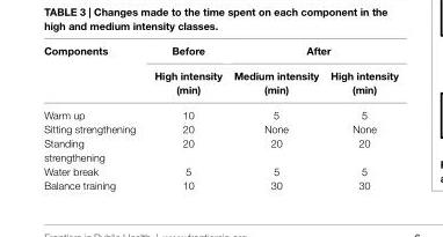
<table><thead><tr><td rowspan="2">components</td><td rowspan="2">Before high intensity (min)</td><td colspan="2">after</td></tr><tr><td>Medium intensity (min)</td><td>high intensity (min)</td></tr></thead><tbody><tr><td>Warm up</td><td>10</td><td>5</td><td>5</td></tr><tr><td>Sitting strengthening</td><td>20</td><td>None</td><td>None</td></tr><tr><td>Standing strengthening</td><td>20</td><td>20</td><td>20</td></tr><tr><td>Water break</td><td>5</td><td>5</td><td>5</td></tr><tr><td>Balance training</td><td>10</td><td>30</td><td>30</td></tr></tbody></table>